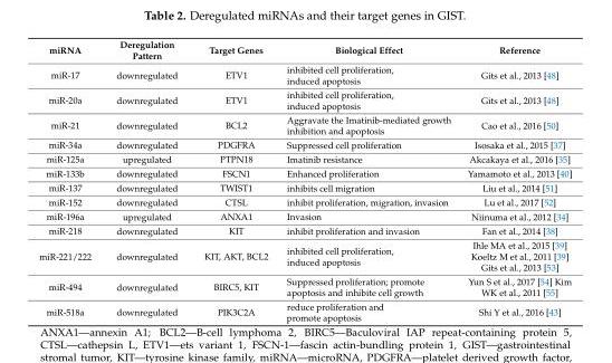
<table><thead><tr><td>miRNA</td><td>Deregulation Pattern</td><td>Target Genes</td><td>Biological Effect</td><td>Reference</td></tr></thead><tbody><tr><td>miR-17</td><td>downregulated</td><td>ETV1</td><td>inhibited cell proliferation, induced apoptosis</td><td>Gits et al., 2013 [48]</td></tr><tr><td>miR-20a</td><td>downregulated</td><td>ETV1</td><td>inhibited cell proliferation, induced apoptosis</td><td>Gits et al., 2013 [48]</td></tr><tr><td>miR-21</td><td>downregulated</td><td>BCL2</td><td>Aggravate the Imatinib-mediated growth inhibition and apoptosis</td><td>Cao et al., 2016 [50]</td></tr><tr><td>miR-34a</td><td>downregulated</td><td>PDGFRA</td><td>Suppressed cell proliferation</td><td>Isosaka et al., 2015 [37]</td></tr><tr><td>miR-125a</td><td>upregulated</td><td>PTPN18</td><td>Imatinib resistance</td><td>Akcakaya et al., 2016 [35]</td></tr><tr><td>miR-133b</td><td>downregulated</td><td>FSCN1</td><td>Enhanced proliferation</td><td>Yamamoto et al., 2013 [40]</td></tr><tr><td>miR-137</td><td>downregulated</td><td>TWIST1</td><td>inhibits cell migration</td><td>Liu et al., 2014 [51]</td></tr><tr><td>miR-152</td><td>downregulated</td><td>CTSL</td><td>inhibit proliferation, migration, invasion</td><td>Lu et al., 2017 [52]</td></tr><tr><td>miR-196a</td><td>upregulated</td><td>ANXA1</td><td>Invasion</td><td>Niinuma et al., 2012 [34]</td></tr><tr><td>miR-218</td><td>downregulated</td><td>KIT</td><td>inhibit proliferation and invasion</td><td>Fan et al., 2014 [38]</td></tr><tr><td>miR-221/222</td><td>downregulated</td><td>KIT, AKT, BCL2</td><td>inhibited cell proliferation, induced apoptosis</td><td>Ihle MA et al., 2015 [39] Koeltz M et al., 2011 [39] Gits et al., 2013 [53]</td></tr><tr><td>miR-494</td><td>downregulated</td><td>BIRC5, KIT</td><td>Suppressed proliferation; promote apoptosis and inhibite cell growth</td><td>Yun S et al., 2017 [54] Kim WK et al., 2011 [55]</td></tr><tr><td>miR-518a</td><td>downregulated</td><td>PIK3C2A</td><td>reduce proliferation and promote apoptosis</td><td>Shi Y et al., 2016 [43]</td></tr></tbody></table>